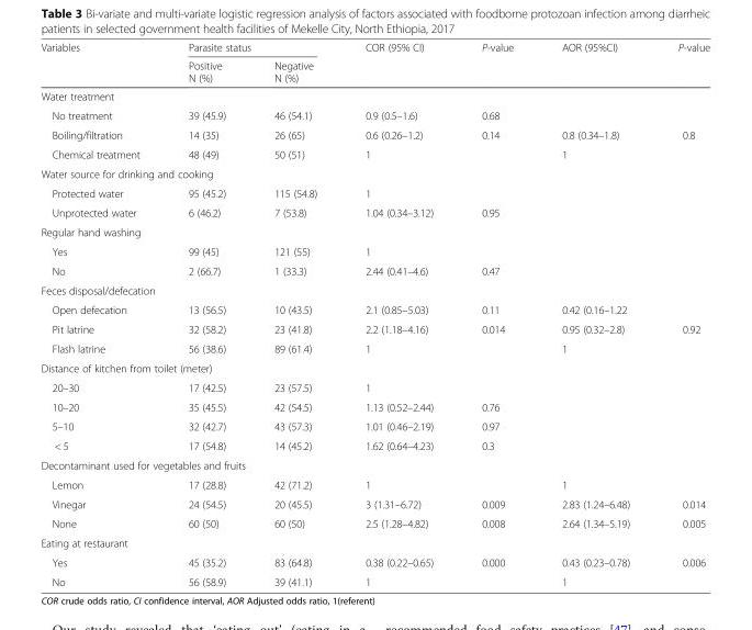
<table><thead><tr><td rowspan="2">Variables</td><td colspan="2">Parasite status</td><td rowspan="2">COR (95% CI)</td><td rowspan="2">P-value</td><td rowspan="2">AOR (95%CI)</td><td rowspan="2">P-value</td></tr><tr><td>Positive N (%)</td><td>Negative N (%)</td></tr></thead><tbody><tr><td colspan="7">Water treatment</td></tr><tr><td>No treatment</td><td>39 (45.9)</td><td>46 (54.1)</td><td>0.9 (0.5–1.6)</td><td>0.68</td><td></td><td></td></tr><tr><td>Boiling/filtration</td><td>14 (35)</td><td>26 (65)</td><td>0.6 (0.26–1.2)</td><td>0.14</td><td>0.8 (0.34–1.8)</td><td>0.8</td></tr><tr><td>Chemical treatment</td><td>48 (49)</td><td>50 (51)</td><td>1</td><td></td><td>1</td><td></td></tr><tr><td colspan="7">Water source for drinking and cooking</td></tr><tr><td>Protected water</td><td>95 (45.2)</td><td>115 (54.8)</td><td>1</td><td></td><td></td><td rowspan="2"></td></tr><tr><td>Unprotected water</td><td>6 (46.2)</td><td>7 (53.8)</td><td>1.04 (0.34–3.12)</td><td>0.95</td><td></td></tr><tr><td colspan="7">Regular hand washing</td></tr><tr><td>Yes</td><td>99 (45)</td><td>121 (55)</td><td>1</td><td></td><td></td><td rowspan="2"></td></tr><tr><td>No</td><td>2 (66.7)</td><td>1 (33.3)</td><td>2.44 (0.41–4.6)</td><td>0.47</td><td></td></tr><tr><td colspan="7">Feces disposal/defecation</td></tr><tr><td>Open defecation</td><td>13 (56.5)</td><td>10 (43.5)</td><td>2.1 (0.85–5.03)</td><td>0.11</td><td>0.42 (0.16–1.22</td><td></td></tr><tr><td>Pit latrine</td><td>32 (58.2)</td><td>23 (41.8)</td><td>2.2 (1.18–4.16)</td><td>0.014</td><td>0.95 (0.32–2.8)</td><td>0.92</td></tr><tr><td>Flash latrine</td><td>56 (38.6)</td><td>89 (61.4)</td><td>1</td><td></td><td>1</td><td></td></tr><tr><td colspan="7">Distance of kitchen from toilet (meter)</td></tr><tr><td>20–30</td><td>17 (42.5)</td><td>23 (57.5)</td><td>1</td><td></td><td></td><td rowspan="4"></td></tr><tr><td>10–20</td><td>35 (45.5)</td><td>42 (54.5)</td><td>1.13 (0.52–2.44)</td><td>0.76</td><td></td></tr><tr><td>5–10</td><td>32 (42.7)</td><td>43 (57.3)</td><td>1.01 (0.46–2.19)</td><td>0.97</td><td></td></tr><tr><td>&lt; 5</td><td>17 (54.8)</td><td>14 (45.2)</td><td>1.62 (0.64–4.23)</td><td>0.3</td><td></td></tr><tr><td colspan="7">Decontaminant used for vegetables and fruits</td></tr><tr><td>Lemon</td><td>17 (28.8)</td><td>42 (71.2)</td><td>1</td><td></td><td>1</td><td></td></tr><tr><td>Vinegar</td><td>24 (54.5)</td><td>20 (45.5)</td><td>3 (1.31–6.72)</td><td>0.009</td><td>2.83 (1.24–6.48)</td><td>0.014</td></tr><tr><td>None</td><td>60 (50)</td><td>60 (50)</td><td>2.5 (1.28–4.82)</td><td>0.008</td><td>2.64 (1.34–5.19)</td><td>0.005</td></tr><tr><td colspan="7">Eating at restaurant</td></tr><tr><td>Yes</td><td>45 (35.2)</td><td>83 (64.8)</td><td>0.38 (0.22–0.65)</td><td>0.000</td><td>0.43 (0.23–0.78)</td><td>0.006</td></tr><tr><td>No</td><td>56 (58.9)</td><td>39 (41.1)</td><td>1</td><td></td><td>1</td><td></td></tr></tbody></table>